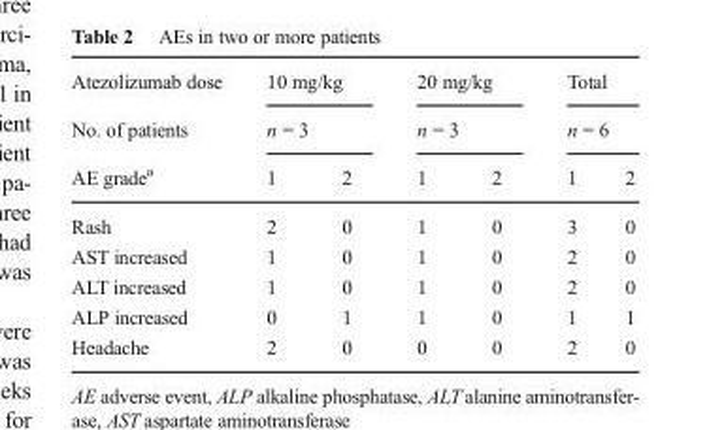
<table><thead><tr><td rowspan="3">Atezolizumab dose No. of patients AE grade<sup>a</sup></td><td rowspan="2" colspan="2">10 mg/kg n = 3</td><td rowspan="2" colspan="2">20 mg/kg n = 3</td><td rowspan="2" colspan="2">Total n = 6</td></tr><tr></tr><tr><td>1</td><td>2</td><td>1</td><td>2</td><td>1</td><td>2</td></tr></thead><tbody><tr><td>Rash</td><td>2</td><td>0</td><td>1</td><td>0</td><td>3</td><td>0</td></tr><tr><td>AST increased</td><td>1</td><td>0</td><td>1</td><td>0</td><td>2</td><td>0</td></tr><tr><td>ALT increased</td><td>1</td><td>0</td><td>1</td><td>0</td><td>2</td><td>0</td></tr><tr><td>ALP increased</td><td>0</td><td>1</td><td>1</td><td>0</td><td>1</td><td>1</td></tr><tr><td>Headache</td><td>2</td><td>0</td><td>0</td><td>0</td><td>2</td><td>0</td></tr></tbody></table>